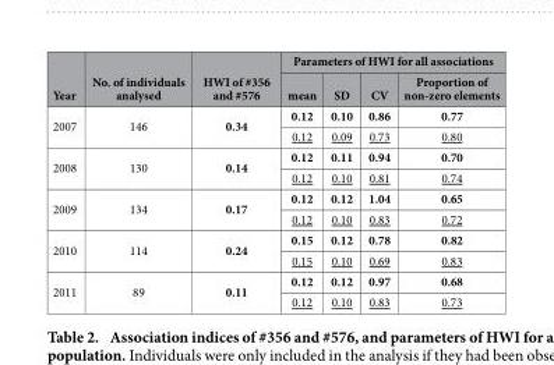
<table><thead><tr><td rowspan="2">Year</td><td rowspan="2">No. of individuals analysed</td><td rowspan="2">HWI of #356 and #576</td><td colspan="4">Parameters of HWI for all associations</td></tr><tr><td>mean</td><td>SD</td><td>CV</td><td>Proportion of non-zero elements</td></tr></thead><tbody><tr><td rowspan="2">2007</td><td rowspan="2">146</td><td rowspan="2">0.34</td><td>0.12</td><td>0.10</td><td>0.86</td><td>0.77</td></tr><tr><td>0.12</td><td>0.09</td><td>0.73</td><td>0.80</td></tr><tr><td rowspan="2">2008</td><td rowspan="2">130</td><td rowspan="2">0.14</td><td>0.12</td><td>0.11</td><td>0.94</td><td>0.70</td></tr><tr><td>0.12</td><td>0.10</td><td>0.81</td><td>0.74</td></tr><tr><td rowspan="2">2009</td><td rowspan="2">134</td><td rowspan="2">0.17</td><td>0.12</td><td>0.12</td><td>1.04</td><td>0.65</td></tr><tr><td>0.12</td><td>0.10</td><td>0.83</td><td>0.72</td></tr><tr><td rowspan="2">2010</td><td rowspan="2">114</td><td rowspan="2">0.24</td><td>0.15</td><td>0.12</td><td>0.78</td><td>0.82</td></tr><tr><td>0.15</td><td>0.10</td><td>0.69</td><td>0.83</td></tr><tr><td rowspan="2">2011</td><td rowspan="2">89</td><td rowspan="2">0.11</td><td>0.12</td><td>0.12</td><td>0.97</td><td>0.68</td></tr><tr><td>0.12</td><td>0.10</td><td>0.83</td><td>0.73</td></tr></tbody></table>